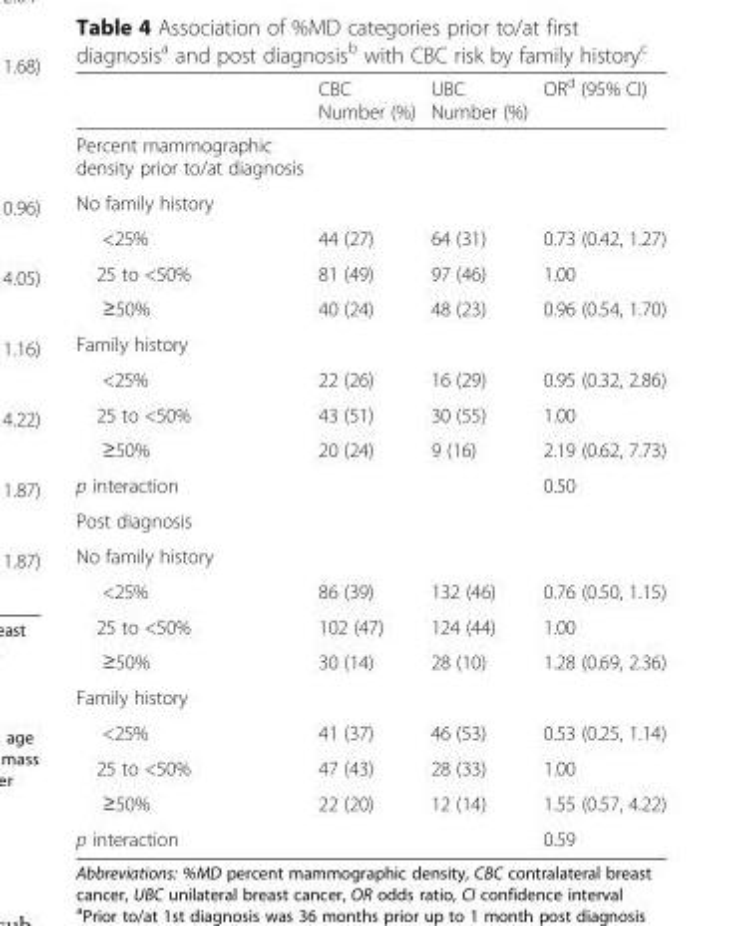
<table><thead><tr><td></td><td>CBC Number (%)</td><td>UBC Number (%)</td><td>OR<sup>d</sup> (95% CI)</td></tr></thead><tbody><tr><td colspan="4">Percent mammographic density prior to/at diagnosis</td></tr><tr><td colspan="4">No family history</td></tr><tr><td>&lt;25%</td><td>44 (27)</td><td>64 (31)</td><td>0.73 (0.42, 1.27)</td></tr><tr><td>25 to &lt;50%</td><td>81 (49)</td><td>97 (46)</td><td>1.00</td></tr><tr><td>≥50%</td><td>40 (24)</td><td>48 (23)</td><td>0.96 (0.54, 1.70)</td></tr><tr><td colspan="4">Family history</td></tr><tr><td>&lt;25%</td><td>22 (26)</td><td>16 (29)</td><td>0.95 (0.32, 2.86)</td></tr><tr><td>25 to &lt;50%</td><td>43 (51)</td><td>30 (55)</td><td>1.00</td></tr><tr><td>≥50%</td><td>20 (24)</td><td>9 (16)</td><td>2.19 (0.62, 7.73)</td></tr><tr><td>p interaction</td><td></td><td></td><td>0.50</td></tr><tr><td colspan="4">Post diagnosis</td></tr><tr><td colspan="4">No family history</td></tr><tr><td>&lt;25%</td><td>86 (39)</td><td>132 (46)</td><td>0.76 (0.50, 1.15)</td></tr><tr><td>25 to &lt;50%</td><td>102 (47)</td><td>124 (44)</td><td>1.00</td></tr><tr><td>≥50%</td><td>30 (14)</td><td>28 (10)</td><td>1.28 (0.69, 2.36)</td></tr><tr><td colspan="4">Family history</td></tr><tr><td>&lt;25%</td><td>41 (37)</td><td>46 (53)</td><td>0.53 (0.25, 1.14)</td></tr><tr><td>25 to &lt;50%</td><td>47 (43)</td><td>28 (33)</td><td>1.00</td></tr><tr><td>≥50%</td><td>22 (20)</td><td>12 (14)</td><td>1.55 (0.57, 4.22)</td></tr><tr><td>p interaction</td><td></td><td></td><td>0.59</td></tr></tbody></table>